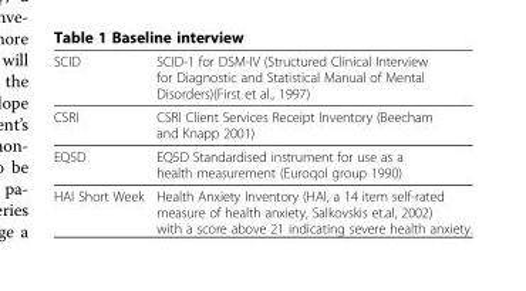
<table><tbody><tr><td>SCID</td><td>SCID-1 for DSM-IV (Structured Clinical Interview for Diagnostic and Statistical Manual of Mental Disorders)(First et al., 1997)</td></tr><tr><td>CSRI</td><td>CSRI Client Services Receipt Inventory (Beecham and Knapp 2001)</td></tr><tr><td>EQ5D</td><td>EQ5D Standardised instrument for use as a health measurement (Euroqol group 1990)</td></tr><tr><td>HAI Short Week</td><td>Health Anxiety Inventory (HAI, a 14 item self-rated measure of health anxiety, Salkovskis et.al, 2002) with a score above 21 indicating severe health anxiety.</td></tr></tbody></table>